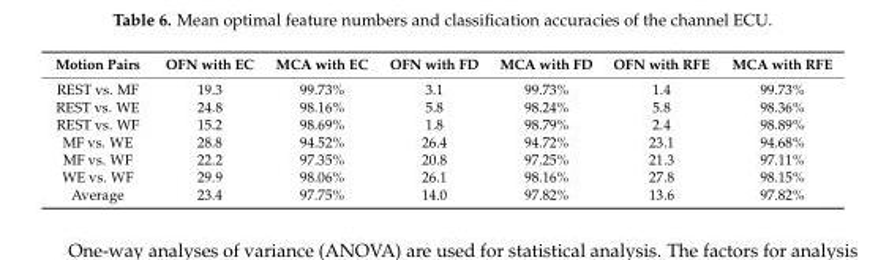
<table><thead><tr><td>Motion Pairs</td><td>OFN with EC</td><td>MCA with EC</td><td>OFN with FD</td><td>MCA with FD</td><td>OFN with RFE</td><td>MCA with RFE</td></tr></thead><tbody><tr><td>REST vs. MF</td><td>19.3</td><td>99.73%</td><td>3.1</td><td>99.73%</td><td>1.4</td><td>99.73%</td></tr><tr><td>REST vs. WE</td><td>24.8</td><td>98.16%</td><td>5.8</td><td>98.24%</td><td>5.8</td><td>98.36%</td></tr><tr><td>REST vs. WF</td><td>15.2</td><td>98.69%</td><td>1.8</td><td>98.79%</td><td>2.4</td><td>98.89%</td></tr><tr><td>MF vs. WE</td><td>28.8</td><td>94.52%</td><td>26.4</td><td>94.72%</td><td>23.1</td><td>94.68%</td></tr><tr><td>MF vs. WF</td><td>22.2</td><td>97.35%</td><td>20.8</td><td>97.25%</td><td>21.3</td><td>97.11%</td></tr><tr><td>WE vs. WF</td><td>29.9</td><td>98.06%</td><td>26.1</td><td>98.16%</td><td>27.8</td><td>98.15%</td></tr><tr><td>Average</td><td>23.4</td><td>97.75%</td><td>14.0</td><td>97.82%</td><td>13.6</td><td>97.82%</td></tr></tbody></table>